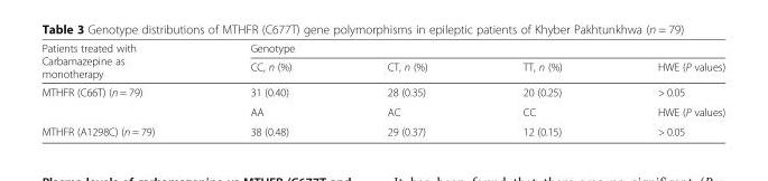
<table><thead><tr><td rowspan="2">Patients treated with Carbamazepine as monotherapy</td><td colspan="4">Genotype</td></tr><tr><td>CC, n (%)</td><td>CT, n (%)</td><td>TT, n (%)</td><td>HWE (P values)</td></tr></thead><tbody><tr><td rowspan="2">MTHFR (C66T) (n = 79)</td><td>31 (0.40)</td><td>28 (0.35)</td><td>20 (0.25)</td><td>&gt; 0.05</td></tr><tr><td>AA</td><td>AC</td><td>CC</td><td>HWE (P values)</td></tr><tr><td>MTHFR (A1298C) (n = 79)</td><td>38 (0.48)</td><td>29 (0.37)</td><td>12 (0.15)</td><td>&gt; 0.05</td></tr></tbody></table>